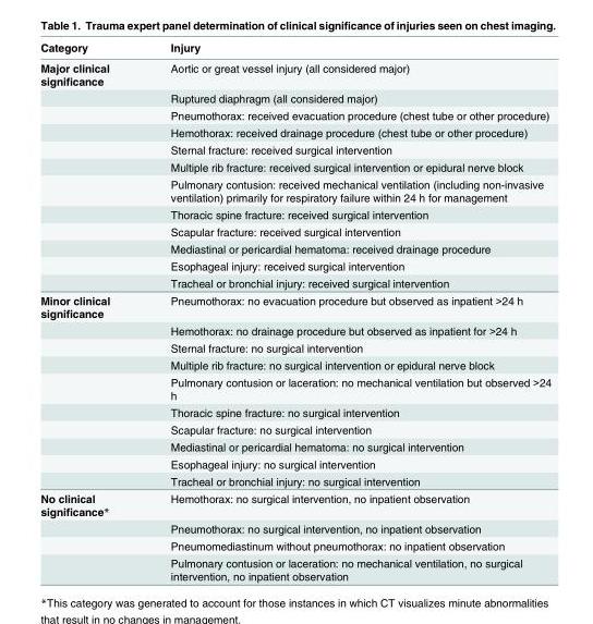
<table><thead><tr><td>Category</td><td>Injury</td></tr></thead><tbody><tr><td rowspan="12">Major clinical significance</td><td>Aortic or great vessel injury (all considered major)</td></tr><tr><td>Ruptured diaphragm (all considered major)</td></tr><tr><td>Pneumothorax: received evacuation procedure (chest tube or other procedure)</td></tr><tr><td>Hemothorax: received drainage procedure (chest tube or other procedure)</td></tr><tr><td>Sternal fracture: received surgical intervention</td></tr><tr><td>Multiple rib fracture: received surgical intervention or epidural nerve block</td></tr><tr><td>Pulmonary contusion: received mechanical ventilation (including non-invasive ventilation) primarily for respiratory failure within 24 h for management</td></tr><tr><td>Thoracic spine fracture: received surgical intervention</td></tr><tr><td>Scapular fracture: received surgical intervention</td></tr><tr><td>Mediastinal or pericardial hematoma: received drainage procedure</td></tr><tr><td>Esophageal injury: received surgical intervention</td></tr><tr><td>Tracheal or bronchial injury: received surgical intervention</td></tr><tr><td rowspan="10">Minor clinical significance</td><td>Pneumothorax: no evacuation procedure but observed as inpatient &gt;24 h</td></tr><tr><td>Hemothorax: no drainage procedure but observed as inpatient for &gt;24 h</td></tr><tr><td>Sternal fracture: no surgical intervention</td></tr><tr><td>Multiple rib fracture: no surgical intervention or epidural nerve block</td></tr><tr><td>Pulmonary contusion or laceration: no mechanical ventilation but observed &gt;24 h</td></tr><tr><td>Thoracic spine fracture: no surgical intervention</td></tr><tr><td>Scapular fracture: no surgical intervention</td></tr><tr><td>Mediastinal or pericardial hematoma: no surgical intervention</td></tr><tr><td>Esophageal injury: no surgical intervention</td></tr><tr><td>Tracheal or bronchial injury: no surgical intervention</td></tr><tr><td rowspan="4">No clinical significance*</td><td>Hemothorax: no surgical intervention, no inpatient observation</td></tr><tr><td>Pneumothorax: no surgical intervention, no inpatient observation</td></tr><tr><td>Pneumomediastinum without pneumothorax: no inpatient observation</td></tr><tr><td>Pulmonary contusion or laceration: no mechanical ventilation, no surgical intervention, no inpatient observation</td></tr></tbody></table>